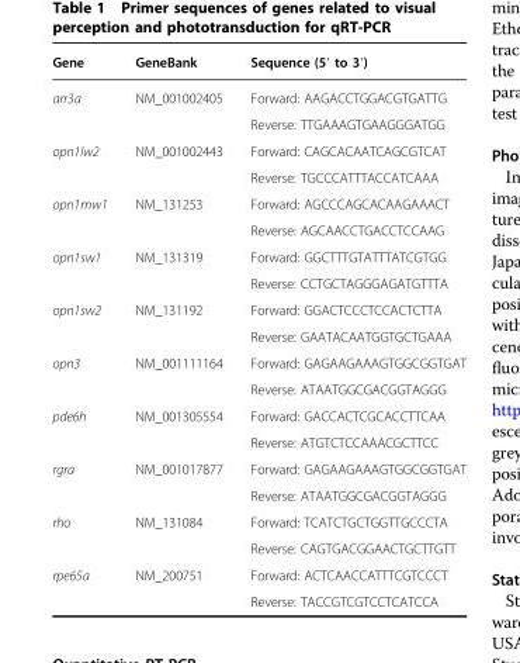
<table><thead><tr><td>Gene</td><td>GeneBank</td><td>Sequence (5′ to 3′)</td></tr></thead><tbody><tr><td rowspan="2">arr3a</td><td>NM_001002405</td><td>Forward: AAGACCTGGACGTGATTG</td></tr><tr><td></td><td>Reverse: TTGAAAGTGAAGGGATGG</td></tr><tr><td rowspan="2">opn1lw2</td><td>NM_001002443</td><td>Forward: CAGCACAATCAGCGTCAT</td></tr><tr><td></td><td>Reverse: TGCCCATTTACCATCAAA</td></tr><tr><td rowspan="2">opn1mw1</td><td>NM_131253</td><td>Forward: AGCCCAGCACAAGAAACT</td></tr><tr><td></td><td>Reverse: AGCAACCTGACCTCCAAG</td></tr><tr><td rowspan="2">opn1sw1</td><td>NM_131319</td><td>Forward: GGCTTTGTATTTATCGTGG</td></tr><tr><td></td><td>Reverse: CCTGCTAGGGAGATGTTTA</td></tr><tr><td rowspan="2">opn1sw2</td><td>NM_131192</td><td>Forward: GGACTCCCTCCACTCTTA</td></tr><tr><td></td><td>Reverse: GAATACAATGGTGCTGAAA</td></tr><tr><td rowspan="2">opn3</td><td>NM_001111164</td><td>Forward: GAGAAGAAAGTGGCGGTGAT</td></tr><tr><td></td><td>Reverse: ATAATGGCGACGGTAGGG</td></tr><tr><td rowspan="2">pde6h</td><td>NM_001305554</td><td>Forward: GACCACTCGCACCTTCAA</td></tr><tr><td></td><td>Reverse: ATGTCTCCAAACGCTTCC</td></tr><tr><td rowspan="2">rgra</td><td>NM_001017877</td><td>Forward: GAGAAGAAAGTGGCGGTGAT</td></tr><tr><td></td><td>Reverse: ATAATGGCGACGGTAGGG</td></tr><tr><td rowspan="2">rho</td><td>NM_131084</td><td>Forward: TCATCTGCTGGTTGCCCTA</td></tr><tr><td></td><td>Reverse: CAGTGACGGAACTGCTTGTT</td></tr><tr><td rowspan="2">rpe65a</td><td>NM_200751</td><td>Forward: ACTCAACCATTTCGTCCCT</td></tr><tr><td></td><td>Reverse: TACCGTCGTCCTCATCCA</td></tr></tbody></table>